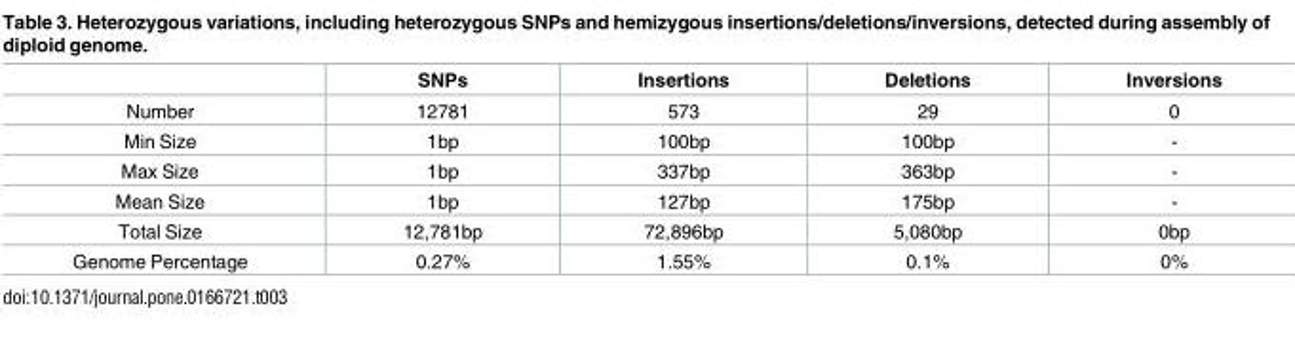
<table><thead><tr><td></td><td>SNPs</td><td>Insertions</td><td>Deletions</td><td>Inversions</td></tr></thead><tbody><tr><td>Number</td><td>12781</td><td>573</td><td>29</td><td>0</td></tr><tr><td>Min Size</td><td>1bp</td><td>100bp</td><td>100bp</td><td>-</td></tr><tr><td>Max Size</td><td>1bp</td><td>337bp</td><td>363bp</td><td>-</td></tr><tr><td>Mean Size</td><td>1bp</td><td>127bp</td><td>175bp</td><td>-</td></tr><tr><td>Total Size</td><td>12,781bp</td><td>72,896bp</td><td>5,080bp</td><td>0bp</td></tr><tr><td>Genome Percentage</td><td>0.27%</td><td>1.55%</td><td>0.1%</td><td>0%</td></tr></tbody></table>